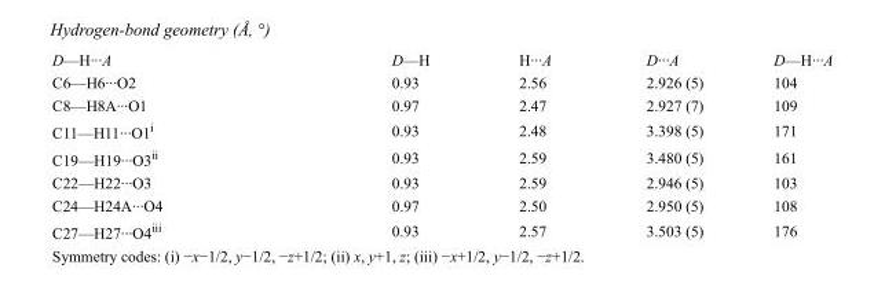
<table><tbody><tr><td>D—H···A</td><td>D—H</td><td>H···A</td><td>D···A</td><td>D—H···A</td></tr><tr><td>C6—H6···O2</td><td>0.93</td><td>2.56</td><td>2.926 (5)</td><td>104</td></tr><tr><td>C8—H8A···O1</td><td>0.97</td><td>2.47</td><td>2.927 (7)</td><td>109</td></tr><tr><td>C11—H11···O1<sup>i</sup></td><td>0.93</td><td>2.48</td><td>3.398 (5)</td><td>171</td></tr><tr><td>C19—H19···O3<sup>ii</sup></td><td>0.93</td><td>2.59</td><td>3.480 (5)</td><td>161</td></tr><tr><td>C22—H22···O3</td><td>0.93</td><td>2.59</td><td>2.946 (5)</td><td>103</td></tr><tr><td>C24—H24A···O4</td><td>0.97</td><td>2.50</td><td>2.950 (5)</td><td>108</td></tr><tr><td>C27—H27···O4<sup>iii</sup></td><td>0.93</td><td>2.57</td><td>3.503 (5)</td><td>176</td></tr></tbody></table>